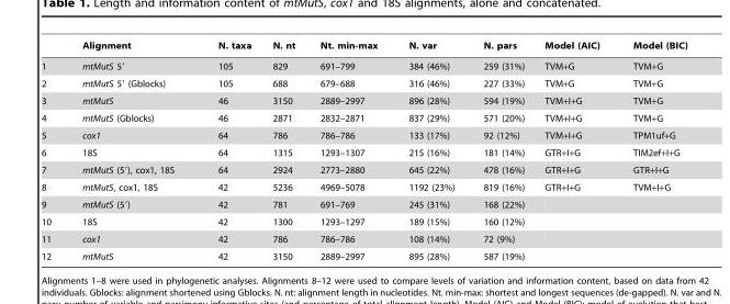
<table><thead><tr><td></td><td>Alignment</td><td>N. taxa</td><td>N. nt</td><td>Nt. min-max</td><td>N. var</td><td>N. pars</td><td>Model (AIC)</td><td>Model (BIC)</td></tr></thead><tbody><tr><td>1</td><td>mtMutS 5′</td><td>105</td><td>829</td><td>691–799</td><td>384 (46%)</td><td>259 (31%)</td><td>TVM+G</td><td>TVM+G</td></tr><tr><td>2</td><td>mtMutS 5′ (Gblocks)</td><td>105</td><td>688</td><td>679–688</td><td>316 (46%)</td><td>227 (33%)</td><td>TVM+G</td><td>TVM+G</td></tr><tr><td>3</td><td>mtMutS</td><td>46</td><td>3150</td><td>2889–2997</td><td>896 (28%)</td><td>594 (19%)</td><td>TVM+I+G</td><td>TVM+G</td></tr><tr><td>4</td><td>mtMutS (Gblocks)</td><td>46</td><td>2871</td><td>2832–2871</td><td>837 (29%)</td><td>571 (20%)</td><td>TVM+I+G</td><td>TVM+G</td></tr><tr><td>5</td><td>cox1</td><td>64</td><td>786</td><td>786–786</td><td>133 (17%)</td><td>92 (12%)</td><td>TVM+I+G</td><td>TPM1uf+G</td></tr><tr><td>6</td><td>18S</td><td>64</td><td>1315</td><td>1293–1307</td><td>215 (16%)</td><td>181 (14%)</td><td>GTR+I+G</td><td>TIM2ef+I+G</td></tr><tr><td>7</td><td>mtMutS (5′), cox1, 18S</td><td>64</td><td>2924</td><td>2773–2880</td><td>645 (22%)</td><td>478 (16%)</td><td>GTR+I+G</td><td>GTR+I+G</td></tr><tr><td>8</td><td>mtMutS, cox1, 18S</td><td>42</td><td>5236</td><td>4969–5078</td><td>1192 (23%)</td><td>819 (16%)</td><td>GTR+I+G</td><td>TVM+I+G</td></tr><tr><td>9</td><td>mtMutS (5′)</td><td>42</td><td>781</td><td>691–769</td><td>245 (31%)</td><td>168 (22%)</td><td></td><td></td></tr><tr><td>10</td><td>18S</td><td>42</td><td>1300</td><td>1293–1297</td><td>189 (15%)</td><td>160 (12%)</td><td></td><td></td></tr><tr><td>11</td><td>cox1</td><td>42</td><td>786</td><td>786–786</td><td>108 (14%)</td><td>72 (9%)</td><td></td><td></td></tr><tr><td>12</td><td>mtMutS</td><td>42</td><td>3150</td><td>2889–2997</td><td>895 (28%)</td><td>587 (19%)</td><td></td><td></td></tr></tbody></table>